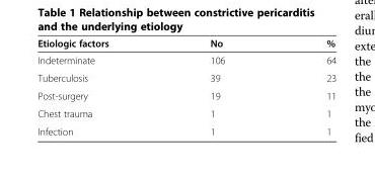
<table><thead><tr><td>Etiologic factors</td><td>No</td><td>%</td></tr></thead><tbody><tr><td>Indeterminate</td><td>106</td><td>64</td></tr><tr><td>Tuberculosis</td><td>39</td><td>23</td></tr><tr><td>Post-surgery</td><td>19</td><td>11</td></tr><tr><td>Chest trauma</td><td>1</td><td>1</td></tr><tr><td>Infection</td><td>1</td><td>1</td></tr></tbody></table>